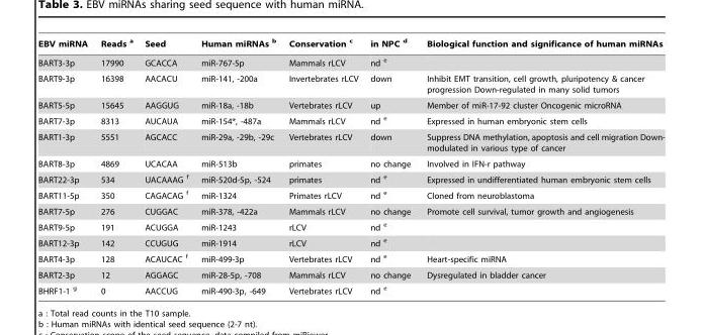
<table><thead><tr><td>EBV miRNA</td><td>Reads <sup>a</sup></td><td>Seed</td><td>Human miRNAs <sup>b</sup></td><td>Conservation <sup>c</sup></td><td>in NPC <sup>d</sup></td><td>Biological function and significance of human miRNAs</td></tr></thead><tbody><tr><td>BART3-3p</td><td>17990</td><td>GCACCA</td><td>miR-767-5p</td><td>Mammals rLCV</td><td>nd <sup>e</sup></td><td></td></tr><tr><td>BART9-3p</td><td>16398</td><td>AACACU</td><td>miR-141, -200a</td><td>Invertebrates rLCV</td><td>down</td><td>Inhibit EMT transition, cell growth, pluripotency &amp; cancer progression Down-regulated in many solid tumors</td></tr><tr><td>BART5-5p</td><td>15645</td><td>AAGGUG</td><td>miR-18a, -18b</td><td>Vertebrates rLCV</td><td>up</td><td>Member of miR-17-92 cluster Oncogenic microRNA</td></tr><tr><td>BART7-3p</td><td>8313</td><td>AUCAUA</td><td>miR-154*, -487a</td><td>Mammals rLCV</td><td>nd <sup>e</sup></td><td>Expressed in human embryonic stem cells</td></tr><tr><td>BART1-3p</td><td>5551</td><td>AGCACC</td><td>miR-29a, -29b, -29c</td><td>Vertebrates rLCV</td><td>down</td><td>Suppress DNA methylation, apoptosis and cell migration Down- modulated in various type of cancer</td></tr><tr><td>BART8-3p</td><td>4869</td><td>UCACAA</td><td>miR-513b</td><td>primates</td><td>no change</td><td>Involved in IFN-r pathway</td></tr><tr><td>BART22-3p</td><td>534</td><td>UACAAAG <sup>f</sup></td><td>miR-520d-5p, -524</td><td>primates</td><td>nd <sup>e</sup></td><td>Expressed in undifferentiated human embryonic stem cells</td></tr><tr><td>BART11-5p</td><td>350</td><td>CAGACAG <sup>f</sup></td><td>miR-1324</td><td>Primates rLCV</td><td>nd <sup>e</sup></td><td>Cloned from neuroblastoma</td></tr><tr><td>BART7-5p</td><td>276</td><td>CUGGAC</td><td>miR-378, -422a</td><td>Mammals rLCV</td><td>no change</td><td>Promote cell survival, tumor growth and angiogenesis</td></tr><tr><td>BART9-5p</td><td>191</td><td>ACUGGA</td><td>miR-1243</td><td>rLCV</td><td>nd <sup>e</sup></td><td></td></tr><tr><td>BART12-3p</td><td>142</td><td>CCUGUG</td><td>miR-1914</td><td>rLCV</td><td>nd <sup>e</sup></td><td></td></tr><tr><td>BART4-3p</td><td>128</td><td>ACAUCAC <sup>f</sup></td><td>miR-499-3p</td><td>Vertebrates rLCV</td><td>nd <sup>e</sup></td><td>Heart-specific miRNA</td></tr><tr><td>BART2-3p</td><td>12</td><td>AGGAGC</td><td>miR-28-5p, -708</td><td>Mammals rLCV</td><td>no change</td><td>Dysregulated in bladder cancer</td></tr><tr><td>BHRF1-1 <sup>g</sup></td><td>0</td><td>AACCUG</td><td>miR-490-3p, -649</td><td>Vertebrates rLCV</td><td>nd <sup>e</sup></td><td></td></tr></tbody></table>